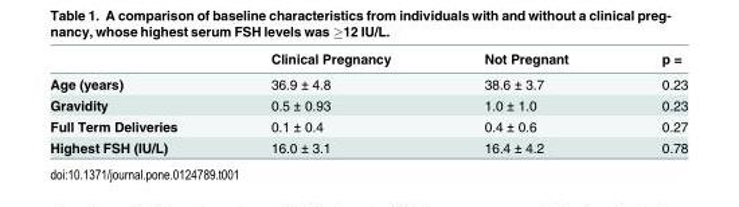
<table><thead><tr><td></td><td>Clinical Pregnancy</td><td>Not Pregnant</td><td>p =</td></tr></thead><tbody><tr><td>Age (years)</td><td>36.9 ± 4.8</td><td>38.6 ± 3.7</td><td>0.23</td></tr><tr><td>Gravidity</td><td>0.5 ± 0.93</td><td>1.0 ± 1.0</td><td>0.23</td></tr><tr><td>Full Term Deliveries</td><td>0.1 ± 0.4</td><td>0.4 ± 0.6</td><td>0.27</td></tr><tr><td>Highest FSH (IU/L)</td><td>16.0 ± 3.1</td><td>16.4 ± 4.2</td><td>0.78</td></tr></tbody></table>